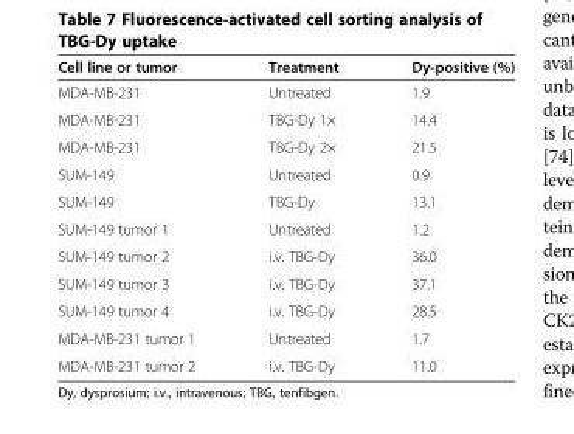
<table><thead><tr><td>Cell line or tumor</td><td>Treatment</td><td>Dy-positive (%)</td></tr></thead><tbody><tr><td>MDA-MB-231</td><td>Untreated</td><td>1.9</td></tr><tr><td>MDA-MB-231</td><td>TBG-Dy 1×</td><td>14.4</td></tr><tr><td>MDA-MB-231</td><td>TBG-Dy 2×</td><td>21.5</td></tr><tr><td>SUM-149</td><td>Untreated</td><td>0.9</td></tr><tr><td>SUM-149</td><td>TBG-Dy</td><td>13.1</td></tr><tr><td>SUM-149 tumor 1</td><td>Untreated</td><td>1.2</td></tr><tr><td>SUM-149 tumor 2</td><td>i.v. TBG-Dy</td><td>36.0</td></tr><tr><td>SUM-149 tumor 3</td><td>i.v. TBG-Dy</td><td>37.1</td></tr><tr><td>SUM-149 tumor 4</td><td>i.v. TBG-Dy</td><td>28.5</td></tr><tr><td>MDA-MB-231 tumor 1</td><td>Untreated</td><td>1.7</td></tr><tr><td>MDA-MB-231 tumor 2</td><td>i.v. TBG-Dy</td><td>11.0</td></tr></tbody></table>